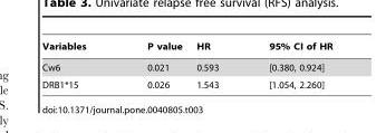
<table><thead><tr><td>Variables</td><td>P value</td><td>HR</td><td>95% CI of HR</td></tr></thead><tbody><tr><td>Cw6</td><td>0.021</td><td>0.593</td><td>[0.380, 0.924]</td></tr><tr><td>DRB1*15</td><td>0.026</td><td>1.543</td><td>[1.054, 2.260]</td></tr></tbody></table>